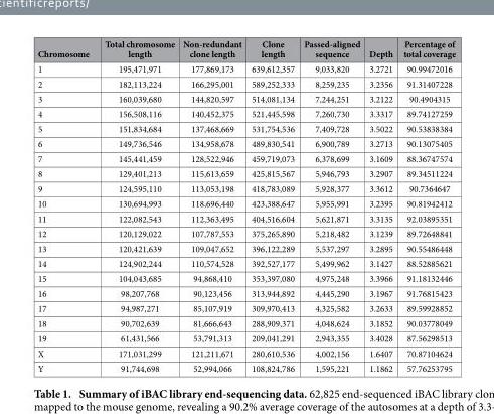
<table><thead><tr><td>Chromosome</td><td>Total chromosome length</td><td>Non-redundant clone length</td><td>Clone length</td><td>Passed-aligned sequence</td><td>Depth</td><td>Percentage of total coverage</td></tr></thead><tbody><tr><td>1</td><td>195,471,971</td><td>177,869,173</td><td>639,612,357</td><td>9,033,820</td><td>3.2721</td><td>90.99472016</td></tr><tr><td>2</td><td>182,113,224</td><td>166,295,001</td><td>589,252,333</td><td>8,259,235</td><td>3.2356</td><td>91.31407228</td></tr><tr><td>3</td><td>160,039,680</td><td>144,820,597</td><td>514,081,134</td><td>7,244,251</td><td>3.2122</td><td>90.4904315</td></tr><tr><td>4</td><td>156,508,116</td><td>140,452,375</td><td>521,445,598</td><td>7,260,730</td><td>3.3317</td><td>89.74127259</td></tr><tr><td>5</td><td>151,834,684</td><td>137,468,669</td><td>531,754,536</td><td>7,409,728</td><td>3.5022</td><td>90.53838384</td></tr><tr><td>6</td><td>149,736,546</td><td>134,958,678</td><td>489,830,541</td><td>6,900,789</td><td>3.2713</td><td>90.13075405</td></tr><tr><td>7</td><td>145,441,459</td><td>128,522,946</td><td>459,719,073</td><td>6,378,699</td><td>3.1609</td><td>88.36747574</td></tr><tr><td>8</td><td>129,401,213</td><td>115,613,659</td><td>425,815,567</td><td>5,946,793</td><td>3.2907</td><td>89.34511224</td></tr><tr><td>9</td><td>124,595,110</td><td>113,053,198</td><td>418,783,089</td><td>5,928,377</td><td>3.3612</td><td>90.7364647</td></tr><tr><td>10</td><td>130,694,993</td><td>118,696,440</td><td>423,388,647</td><td>5,955,991</td><td>3.2395</td><td>90.81942412</td></tr><tr><td>11</td><td>122,082,543</td><td>112,363,495</td><td>404,516,604</td><td>5,621,871</td><td>3.3135</td><td>92.03895351</td></tr><tr><td>12</td><td>120,129,022</td><td>107,787,553</td><td>375,265,890</td><td>5,218,482</td><td>3.1239</td><td>89.72648841</td></tr><tr><td>13</td><td>120,421,639</td><td>109,047,652</td><td>396,122,289</td><td>5,537,297</td><td>3.2895</td><td>90.55486448</td></tr><tr><td>14</td><td>124,902,244</td><td>110,574,528</td><td>392,527,177</td><td>5,499,962</td><td>3.1427</td><td>88.52885621</td></tr><tr><td>15</td><td>104,043,685</td><td>94,868,410</td><td>353,397,080</td><td>4,975,248</td><td>3.3966</td><td>91.18132446</td></tr><tr><td>16</td><td>98,207,768</td><td>90,123,456</td><td>313,944,892</td><td>4,445,290</td><td>3.1967</td><td>91.76815423</td></tr><tr><td>17</td><td>94,987,271</td><td>85,107,919</td><td>309,970,413</td><td>4,325,582</td><td>3.2633</td><td>89.59928852</td></tr><tr><td>18</td><td>90,702,639</td><td>81,666,643</td><td>288,909,371</td><td>4,048,624</td><td>3.1852</td><td>90.03778049</td></tr><tr><td>19</td><td>61,431,566</td><td>53,791,313</td><td>209,041,291</td><td>2,943,355</td><td>3.4028</td><td>87.56298513</td></tr><tr><td>X</td><td>171,031,299</td><td>121,211,671</td><td>280,610,536</td><td>4,002,156</td><td>1.6407</td><td>70.87104624</td></tr><tr><td>Y</td><td>91,744,698</td><td>52,994,066</td><td>108,824,786</td><td>1,595,221</td><td>1.1862</td><td>57.76253795</td></tr></tbody></table>